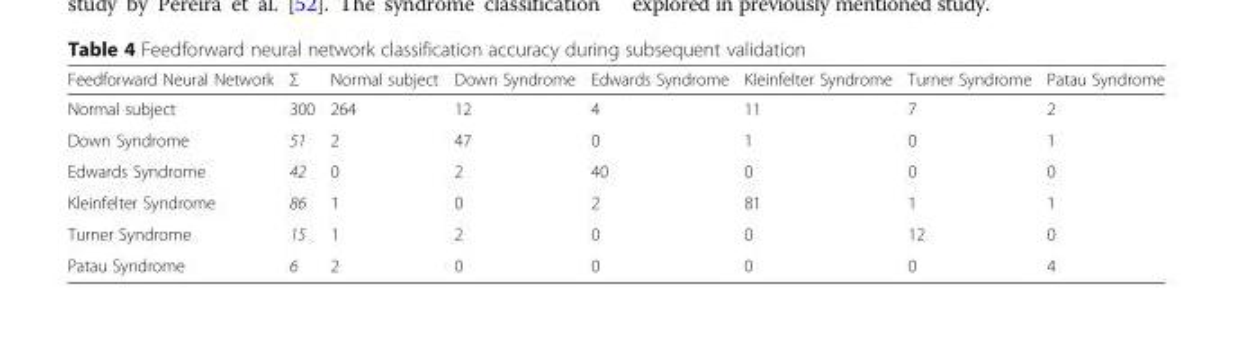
<table><thead><tr><td>Feedforward Neural Network</td><td>Σ</td><td>Normal subject</td><td>Down Syndrome</td><td>Edwards Syndrome</td><td>Kleinfelter Syndrome</td><td>Turner Syndrome</td><td>Patau Syndrome</td></tr></thead><tbody><tr><td>Normal subject</td><td>300</td><td>264</td><td>12</td><td>4</td><td>11</td><td>7</td><td>2</td></tr><tr><td>Down Syndrome</td><td>51</td><td>2</td><td>47</td><td>0</td><td>1</td><td>0</td><td>1</td></tr><tr><td>Edwards Syndrome</td><td>42</td><td>0</td><td>2</td><td>40</td><td>0</td><td>0</td><td>0</td></tr><tr><td>Kleinfelter Syndrome</td><td>86</td><td>1</td><td>0</td><td>2</td><td>81</td><td>1</td><td>1</td></tr><tr><td>Turner Syndrome</td><td>15</td><td>1</td><td>2</td><td>0</td><td>0</td><td>12</td><td>0</td></tr><tr><td>Patau Syndrome</td><td>6</td><td>2</td><td>0</td><td>0</td><td>0</td><td>0</td><td>4</td></tr></tbody></table>